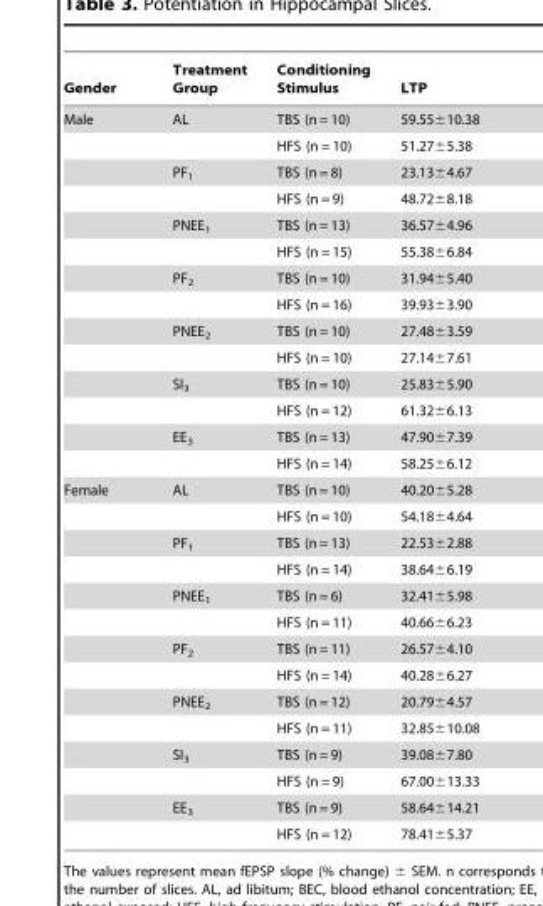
<table><thead><tr><td>Gender</td><td>Treatment Group</td><td>Conditioning Stimulus</td><td>LTP</td></tr></thead><tbody><tr><td rowspan="14">Male</td><td>AL</td><td>TBS (n = 10)</td><td>59.55±10.38</td></tr><tr><td></td><td>HFS (n = 10)</td><td>51.27±5.38</td></tr><tr><td>PF<sub>1</sub></td><td>TBS (n = 8)</td><td>23.13±4.67</td></tr><tr><td></td><td>HFS (n = 9)</td><td>48.72±8.18</td></tr><tr><td>PNEE<sub>1</sub></td><td>TBS (n = 13)</td><td>36.57±4.96</td></tr><tr><td></td><td>HFS (n = 15)</td><td>55.38±6.84</td></tr><tr><td>PF<sub>2</sub></td><td>TBS (n = 10)</td><td>31.94±5.40</td></tr><tr><td></td><td>HFS (n = 16)</td><td>39.93±3.90</td></tr><tr><td>PNEE<sub>2</sub></td><td>TBS (n = 10)</td><td>27.48±3.59</td></tr><tr><td></td><td>HFS (n = 10)</td><td>27.14±7.61</td></tr><tr><td>SI<sub>3</sub></td><td>TBS (n = 10)</td><td>25.83±5.90</td></tr><tr><td></td><td>HFS (n = 12)</td><td>61.32±6.13</td></tr><tr><td>EE<sub>3</sub></td><td>TBS (n = 13)</td><td>47.90±7.39</td></tr><tr><td></td><td>HFS (n = 14)</td><td>58.25±6.12</td></tr><tr><td rowspan="14">Female</td><td>AL</td><td>TBS (n = 10)</td><td>40.20±5.28</td></tr><tr><td></td><td>HFS (n = 10)</td><td>54.18±4.64</td></tr><tr><td>PF<sub>1</sub></td><td>TBS (n = 13)</td><td>22.53±2.88</td></tr><tr><td></td><td>HFS (n = 14)</td><td>38.64±6.19</td></tr><tr><td>PNEE<sub>1</sub></td><td>TBS (n = 6)</td><td>32.41±5.98</td></tr><tr><td></td><td>HFS (n = 11)</td><td>40.66±6.23</td></tr><tr><td>PF<sub>2</sub></td><td>TBS (n = 11)</td><td>26.57±4.10</td></tr><tr><td></td><td>HFS (n = 14)</td><td>40.28±6.27</td></tr><tr><td>PNEE<sub>2</sub></td><td>TBS (n = 12)</td><td>20.79±4.57</td></tr><tr><td></td><td>HFS (n = 11)</td><td>32.85±10.08</td></tr><tr><td>SI<sub>3</sub></td><td>TBS (n = 9)</td><td>39.08±7.80</td></tr><tr><td></td><td>HFS (n = 9)</td><td>67.00±13.33</td></tr><tr><td>EE<sub>3</sub></td><td>TBS (n = 9)</td><td>58.64±14.21</td></tr><tr><td></td><td>HFS (n = 12)</td><td>78.41±5.37</td></tr></tbody></table>